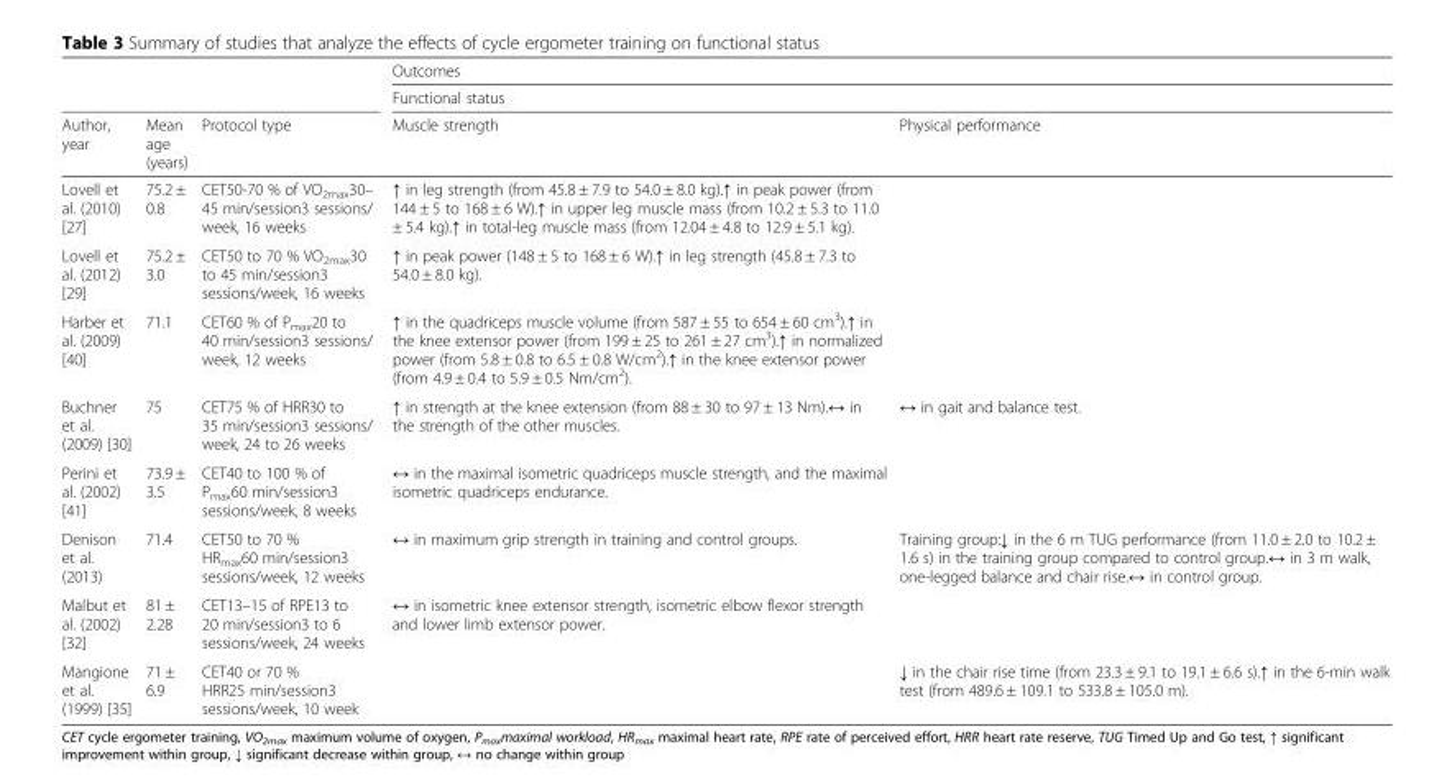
<table><thead><tr><td rowspan="3">Author, year</td><td rowspan="3">Mean age (years)</td><td rowspan="3">Protocol type</td><td rowspan="2" colspan="2">Outcomes Functional status</td></tr><tr></tr><tr><td>Muscle strength</td><td>Physical performance</td></tr></thead><tbody><tr><td>Lovell et al. (2010) [27]</td><td>75.2 ± 0.8</td><td>CET50-70 % of VO<sub>2max</sub>30– 45 min/session3 sessions/ week, 16 weeks</td><td>↑ in leg strength (from 45.8 ± 7.9 to 54.0 ± 8.0 kg).↑ in peak power (from 144 ± 5 to 168 ± 6 W).↑ in upper leg muscle mass (from 10.2 ± 5.3 to 11.0 ± 5.4 kg).↑ in total-leg muscle mass (from 12.04 ± 4.8 to 12.9 ± 5.1 kg).</td><td></td></tr><tr><td>Lovell et al. (2012) [29]</td><td>75.2 ± 3.0</td><td>CET50 to 70 % VO<sub>2max</sub>30 to 45 min/session3 sessions/week, 16 weeks</td><td>↑ in peak power (148 ± 5 to 168 ± 6 W).↑ in leg strength (45.8 ± 7.3 to 54.0 ± 8.0 kg).</td><td></td></tr><tr><td>Harber et al. (2009) [40]</td><td>71.1</td><td>CET60 % of P<sub>max</sub>20 to 40 min/session3 sessions/ week, 12 weeks</td><td>↑ in the quadriceps muscle volume (from 587 ± 55 to 654 ± 60 cm<sup>3</sup>).↑ in the knee extensor power (from 199 ± 25 to 261 ± 27 cm<sup>3</sup>).↑ in normalized power (from 5.8 ± 0.8 to 6.5 ± 0.8 W/cm<sup>2</sup>).↑ in the knee extensor power (from 4.9 ± 0.4 to 5.9 ± 0.5 Nm/cm<sup>2</sup>).</td><td></td></tr><tr><td>Buchner et al. (2009) [30]</td><td>75</td><td>CET75 % of HRR30 to 35 min/session3 sessions/ week, 24 to 26 weeks</td><td>↑ in strength at the knee extension (from 88 ± 30 to 97 ± 13 Nm).↔ in the strength of the other muscles.</td><td>↔ in gait and balance test.</td></tr><tr><td>Perini et al. (2002) [41]</td><td>73.9 ± 3.5</td><td>CET40 to 100 % of P<sub>max</sub>60 min/session3 sessions/week, 8 weeks</td><td>↔ in the maximal isometric quadriceps muscle strength, and the maximal isometric quadriceps endurance.</td><td></td></tr><tr><td>Denison et al. (2013)</td><td>71.4</td><td>CET50 to 70 % HR<sub>max</sub>60 min/session3 sessions/week, 12 weeks</td><td>↔ in maximum grip strength in training and control groups.</td><td>Training group:↓ in the 6 m TUG performance (from 11.0 ± 2.0 to 10.2 ± 1.6 s) in the training group compared to control group.↔ in 3 m walk, one-legged balance and chair rise.↔ in control group.</td></tr><tr><td>Malbut et al. (2002) [32]</td><td>81 ± 2.28</td><td>CET13–15 of RPE13 to 20 min/session3 to 6 sessions/week, 24 weeks</td><td>↔ in isometric knee extensor strength, isometric elbow flexor strength and lower limb extensor power.</td><td></td></tr><tr><td>Mangione et al. (1999) [35]</td><td>71 ± 6.9</td><td>CET40 or 70 % HRR25 min/session3 sessions/week, 10 week</td><td></td><td>↓ in the chair rise time (from 23.3 ± 9.1 to 19.1 ± 6.6 s).↑ in the 6-min walk test (from 489.6 ± 109.1 to 533.8 ± 105.0 m).</td></tr></tbody></table>